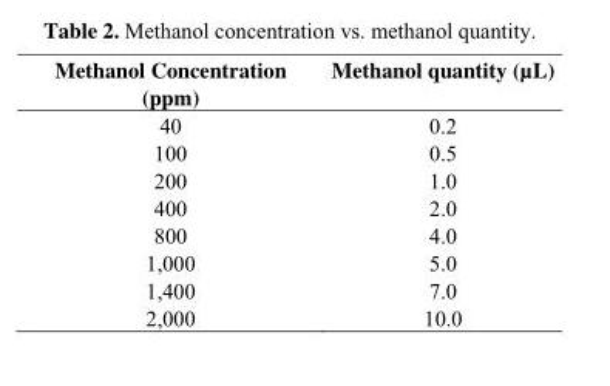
<table><thead><tr><td>Methanol Concentration (ppm)</td><td>Methanol quantity (µL)</td></tr></thead><tbody><tr><td>40</td><td>0.2</td></tr><tr><td>100</td><td>0.5</td></tr><tr><td>200</td><td>1.0</td></tr><tr><td>400</td><td>2.0</td></tr><tr><td>800</td><td>4.0</td></tr><tr><td>1,000</td><td>5.0</td></tr><tr><td>1,400</td><td>7.0</td></tr><tr><td>2,000</td><td>10.0</td></tr></tbody></table>